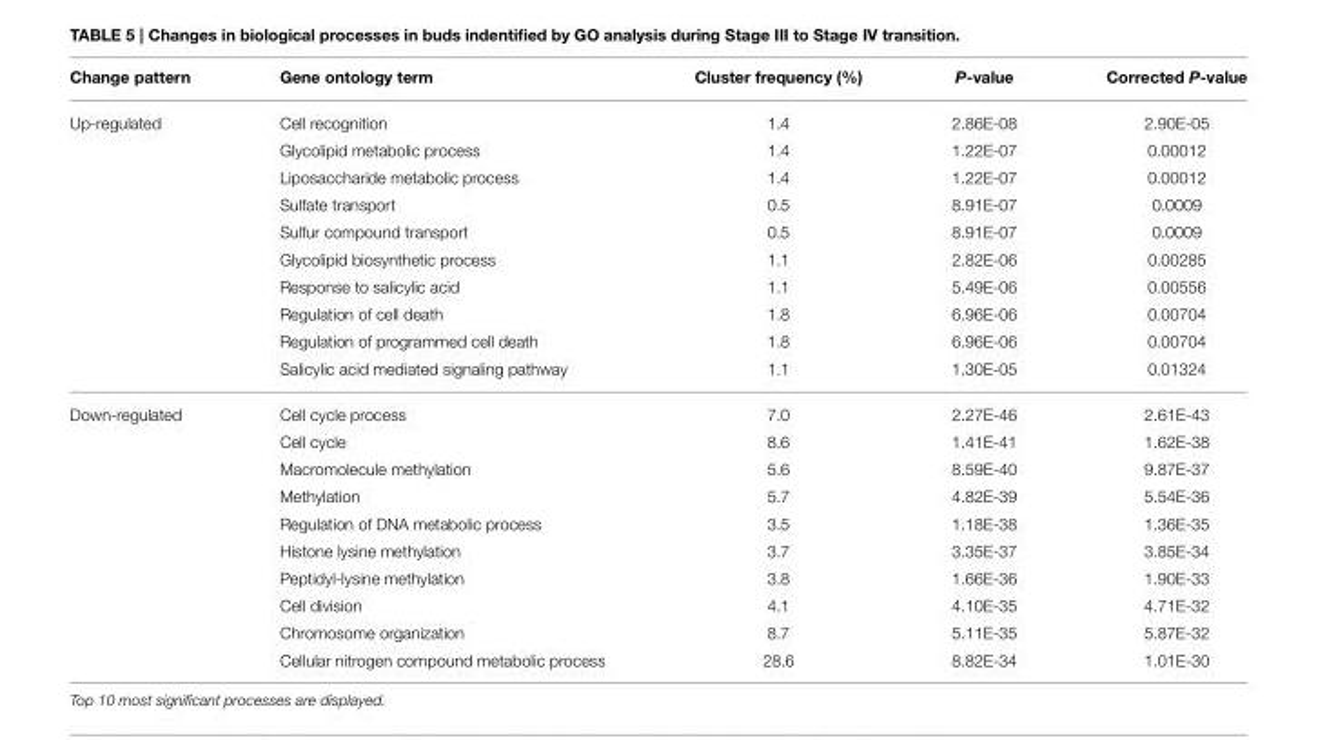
<table><thead><tr><td>Change pattern</td><td>Gene ontology term</td><td>Cluster frequency (%)</td><td>P-value</td><td>Corrected P-value</td></tr></thead><tbody><tr><td rowspan="10">Up-regulated</td><td>Cell recognition</td><td>1.4</td><td>2.86E-08</td><td>2.90E-05</td></tr><tr><td>Glycolipid metabolic process</td><td>1.4</td><td>1.22E-07</td><td>0.00012</td></tr><tr><td>Liposaccharide metabolic process</td><td>1.4</td><td>1.22E-07</td><td>0.00012</td></tr><tr><td>Sulfate transport</td><td>0.5</td><td>8.91E-07</td><td>0.0009</td></tr><tr><td>Sulfur compound transport</td><td>0.5</td><td>8.91E-07</td><td>0.0009</td></tr><tr><td>Glycolipid biosynthetic process</td><td>1.1</td><td>2.82E-06</td><td>0.00285</td></tr><tr><td>Response to salicylic acid</td><td>1.1</td><td>5.49E-06</td><td>0.00556</td></tr><tr><td>Regulation of cell death</td><td>1.8</td><td>6.96E-06</td><td>0.00704</td></tr><tr><td>Regulation of programmed cell death</td><td>1.8</td><td>6.96E-06</td><td>0.00704</td></tr><tr><td>Salicylic acid mediated signaling pathway</td><td>1.1</td><td>1.30E-05</td><td>0.01324</td></tr><tr><td rowspan="10">Down-regulated</td><td>Cell cycle process</td><td>7.0</td><td>2.27E-46</td><td>2.61E-43</td></tr><tr><td>Cell cycle</td><td>8.6</td><td>1.41E-41</td><td>1.62E-38</td></tr><tr><td>Macromolecule methylation</td><td>5.6</td><td>8.59E-40</td><td>9.87E-37</td></tr><tr><td>Methylation</td><td>5.7</td><td>4.82E-39</td><td>5.54E-36</td></tr><tr><td>Regulation of DNA metabolic process</td><td>3.5</td><td>1.18E-38</td><td>1.36E-35</td></tr><tr><td>Histone lysine methylation</td><td>3.7</td><td>3.35E-37</td><td>3.85E-34</td></tr><tr><td>Peptidyl-lysine methylation</td><td>3.8</td><td>1.66E-36</td><td>1.90E-33</td></tr><tr><td>Cell division</td><td>4.1</td><td>4.10E-35</td><td>4.71E-32</td></tr><tr><td>Chromosome organization</td><td>8.7</td><td>5.11E-35</td><td>5.87E-32</td></tr><tr><td>Cellular nitrogen compound metabolic process</td><td>28.6</td><td>8.82E-34</td><td>1.01E-30</td></tr></tbody></table>